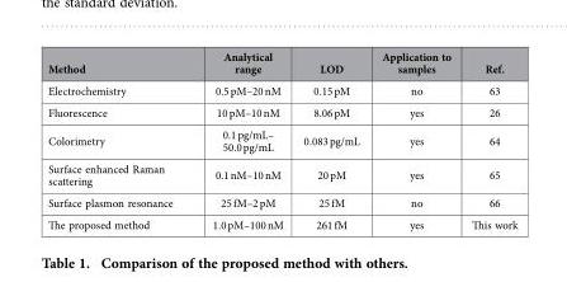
<table><thead><tr><td>Method</td><td>Analytical range</td><td>LOD</td><td>Application to samples</td><td>Ref.</td></tr></thead><tbody><tr><td>Electrochemistry</td><td>0.5 pM–20 nM</td><td>0.15 pM</td><td>no</td><td>63</td></tr><tr><td>Fluorescence</td><td>10 pM–10 nM</td><td>8.06 pM</td><td>yes</td><td>26</td></tr><tr><td>Colorimetry</td><td>0.1 pg/mL– 50.0 pg/mL</td><td>0.083 pg/mL</td><td>yes</td><td>64</td></tr><tr><td>Surface enhanced Raman scattering</td><td>0.1 nM–10 nM</td><td>20 pM</td><td>yes</td><td>65</td></tr><tr><td>Surface plasmon resonance</td><td>25 fM–2 pM</td><td>25 fM</td><td>no</td><td>66</td></tr><tr><td>The proposed method</td><td>1.0 pM–100 nM</td><td>261 fM</td><td>yes</td><td>This work</td></tr></tbody></table>